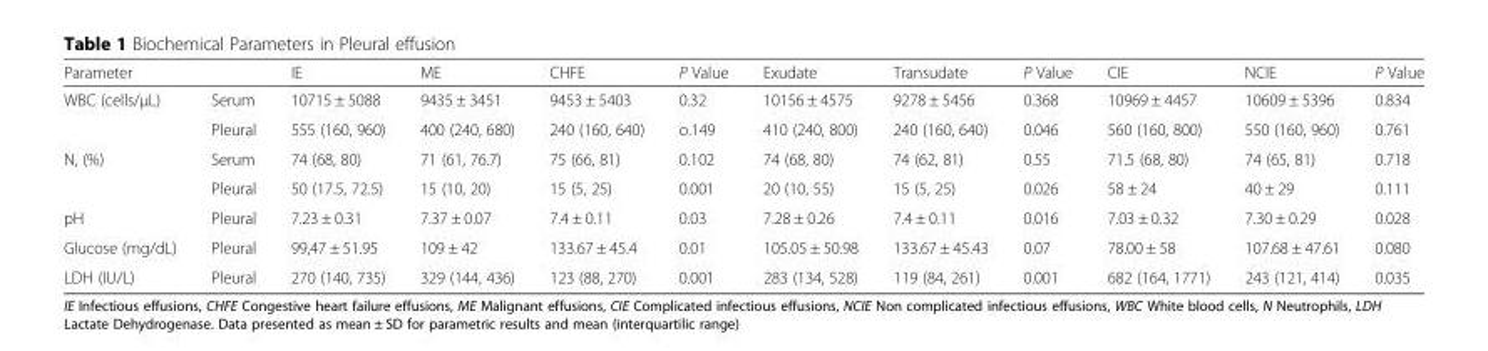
<table><thead><tr><td colspan="2">Parameter</td><td rowspan="2">IE 10715 ± 5088</td><td rowspan="2">ME 9435 ± 3451</td><td rowspan="2">CHFE 9453 ± 5403</td><td rowspan="2">P Value 0.32</td><td rowspan="2">Exudate 10156 ± 4575</td><td rowspan="2">Transudate 9278 ± 5456</td><td rowspan="2">P Value 0.368</td><td rowspan="2">CIE 10969 ± 4457</td><td rowspan="2">NCIE 10609 ± 5396</td><td rowspan="2">P Value 0.834</td></tr><tr><td>WBC (cells/μL)</td><td>Serum</td></tr></thead><tbody><tr><td></td><td>Pleural</td><td>555 (160, 960)</td><td>400 (240, 680)</td><td>240 (160, 640)</td><td>o.149</td><td>410 (240, 800)</td><td>240 (160, 640)</td><td>0.046</td><td>560 (160, 800)</td><td>550 (160, 960)</td><td>0.761</td></tr><tr><td rowspan="2">N, (%)</td><td>Serum</td><td>74 (68, 80)</td><td>71 (61, 76.7)</td><td>75 (66, 81)</td><td>0.102</td><td>74 (68, 80)</td><td>74 (62, 81)</td><td>0.55</td><td>71.5 (68, 80)</td><td>74 (65, 81)</td><td>0.718</td></tr><tr><td>Pleural</td><td>50 (17.5, 72.5)</td><td>15 (10, 20)</td><td>15 (5, 25)</td><td>0.001</td><td>20 (10, 55)</td><td>15 (5, 25)</td><td>0.026</td><td>58 ± 24</td><td>40 ± 29</td><td>0.111</td></tr><tr><td>pH</td><td>Pleural</td><td>7.23 ± 0.31</td><td>7.37 ± 0.07</td><td>7.4 ± 0.11</td><td>0.03</td><td>7.28 ± 0.26</td><td>7.4 ± 0.11</td><td>0.016</td><td>7.03 ± 0.32</td><td>7.30 ± 0.29</td><td>0.028</td></tr><tr><td>Glucose (mg/dL)</td><td>Pleural</td><td>99,47 ± 51.95</td><td>109 ± 42</td><td>133.67 ± 45.4</td><td>0.01</td><td>105.05 ± 50.98</td><td>133.67 ± 45.43</td><td>0.07</td><td>78.00 ± 58</td><td>107.68 ± 47.61</td><td>0.080</td></tr><tr><td>LDH (IU/L)</td><td>Pleural</td><td>270 (140, 735)</td><td>329 (144, 436)</td><td>123 (88, 270)</td><td>0.001</td><td>283 (134, 528)</td><td>119 (84, 261)</td><td>0.001</td><td>682 (164, 1771)</td><td>243 (121, 414)</td><td>0.035</td></tr></tbody></table>